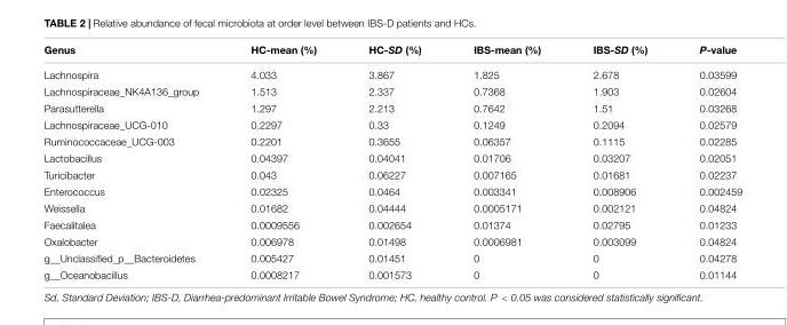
<table><thead><tr><td>Genus</td><td>HC-mean (%)</td><td>HC-SD (%)</td><td>IBS-mean (%)</td><td>IBS-SD (%)</td><td>P-value</td></tr></thead><tbody><tr><td>Lachnospira</td><td>4.033</td><td>3.867</td><td>1.825</td><td>2.678</td><td>0.03599</td></tr><tr><td>Lachnospiraceae_NK4A136_group</td><td>1.513</td><td>2.337</td><td>0.7368</td><td>1.903</td><td>0.02604</td></tr><tr><td>Parasutterella</td><td>1.297</td><td>2.213</td><td>0.7642</td><td>1.51</td><td>0.03268</td></tr><tr><td>Lachnospiraceae_UCG-010</td><td>0.2297</td><td>0.33</td><td>0.1249</td><td>0.2094</td><td>0.02579</td></tr><tr><td>Ruminococcaceae_UCG-003</td><td>0.2201</td><td>0.3655</td><td>0.06357</td><td>0.1115</td><td>0.02285</td></tr><tr><td>Lactobacillus</td><td>0.04397</td><td>0.04041</td><td>0.01706</td><td>0.03207</td><td>0.02051</td></tr><tr><td>Turicibacter</td><td>0.043</td><td>0.06227</td><td>0.007165</td><td>0.01681</td><td>0.02237</td></tr><tr><td>Enterococcus</td><td>0.02325</td><td>0.0464</td><td>0.003341</td><td>0.008906</td><td>0.002459</td></tr><tr><td>Weissella</td><td>0.01682</td><td>0.04444</td><td>0.0005171</td><td>0.002121</td><td>0.04824</td></tr><tr><td>Faecalitalea</td><td>0.0009556</td><td>0.002654</td><td>0.01374</td><td>0.02795</td><td>0.01233</td></tr><tr><td>Oxalobacter</td><td>0.006978</td><td>0.01498</td><td>0.0006981</td><td>0.003099</td><td>0.04824</td></tr><tr><td>g__Unclassified_p__Bacteroidetes</td><td>0.005427</td><td>0.01451</td><td>0</td><td>0</td><td>0.04278</td></tr><tr><td>g__Oceanobacillus</td><td>0.0008217</td><td>0.001573</td><td>0</td><td>0</td><td>0.01144</td></tr></tbody></table>